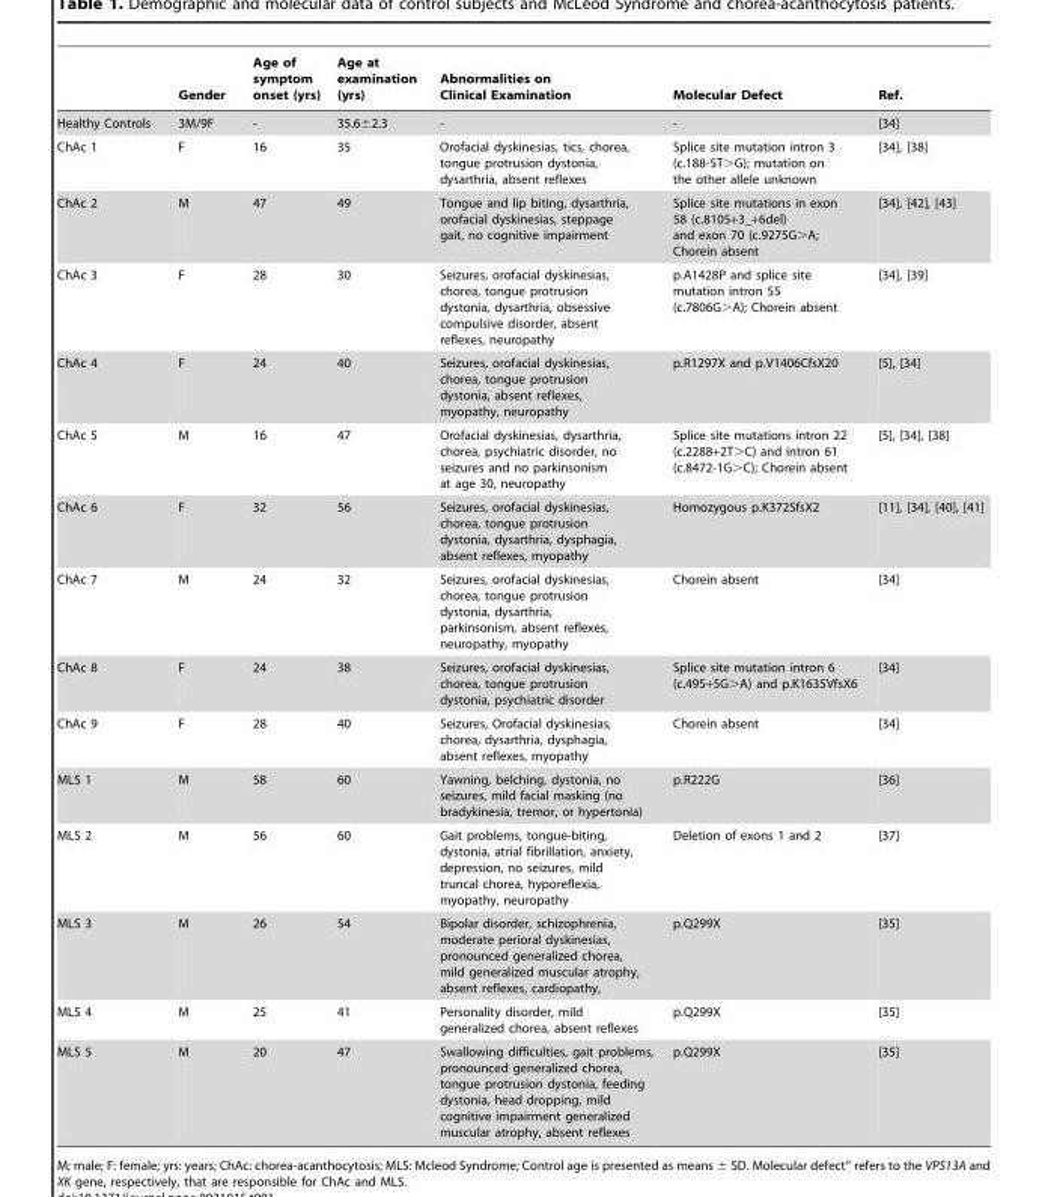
<table><thead><tr><td></td><td>Gender</td><td>Age of symptom onset (yrs)</td><td>Age at examination (yrs)</td><td>Abnormalities on Clinical Examination</td><td>Molecular Defect</td><td>Ref.</td></tr></thead><tbody><tr><td>Healthy Controls</td><td>3M/9F</td><td>-</td><td>35.6±2.3</td><td>-</td><td>-</td><td>[34]</td></tr><tr><td>ChAc 1</td><td>F</td><td>16</td><td>35</td><td>Orofacial dyskinesias, tics, chorea, tongue protrusion dystonia, dysarthria, absent reflexes</td><td>Splice site mutation intron 3 (c.188-5T&gt;G); mutation on the other allele unknown</td><td>[34], [38]</td></tr><tr><td>ChAc 2</td><td>M</td><td>47</td><td>49</td><td>Tongue and lip biting, dysarthria, orofacial dyskinesias, steppage gait, no cognitive impairment</td><td>Splice site mutations in exon 58 (c.8105+3_+6del) and exon 70 (c.9275G&gt;A; Chorein absent</td><td>[34], [42], [43]</td></tr><tr><td>ChAc 3</td><td>F</td><td>28</td><td>30</td><td>Seizures, orofacial dyskinesias, chorea, tongue protrusion dystonia, dysarthria, obsessive compulsive disorder, absent reflexes, neuropathy</td><td>p.A1428P and splice site mutation intron 55 (c.7806G&gt;A); Chorein absent</td><td>[34], [39]</td></tr><tr><td>ChAc 4</td><td>F</td><td>24</td><td>40</td><td>Seizures, orofacial dyskinesias, chorea, tongue protrusion dystonia, absent reflexes, myopathy, neuropathy</td><td>p.R1297X and p.V1406CfsX20</td><td>[5], [34]</td></tr><tr><td>ChAc 5</td><td>M</td><td>16</td><td>47</td><td>Orofacial dyskinesias, dysarthria, chorea, psychiatric disorder, no seizures and no parkinsonism at age 30, neuropathy</td><td>Splice site mutations intron 22 (c.2288+2T&gt;C) and intron 61 (c.8472-1G&gt;C); Chorein absent</td><td>[5], [34], [38]</td></tr><tr><td>ChAc 6</td><td>F</td><td>32</td><td>56</td><td>Seizures, orofacial dyskinesias, chorea, tongue protrusion dystonia, dysarthria, dysphagia, absent reflexes, myopathy</td><td>Homozygous p.K372SfsX2</td><td>[11], [34], [40], [41]</td></tr><tr><td>ChAc 7</td><td>M</td><td>24</td><td>32</td><td>Seizures, orofacial dyskinesias, chorea, tongue protrusion dystonia, dysarthria, parkinsonism, absent reflexes, neuropathy, myopathy</td><td>Chorein absent</td><td>[34]</td></tr><tr><td>ChAc 8</td><td>F</td><td>24</td><td>38</td><td>Seizures, orofacial dyskinesias, chorea, tongue protrusion dystonia, psychiatric disorder</td><td>Splice site mutation intron 6 (c.495+5G&gt;A) and p.K1635VfsX6</td><td>[34]</td></tr><tr><td>ChAc 9</td><td>F</td><td>28</td><td>40</td><td>Seizures, Orofacial dyskinesias, chorea, dysarthria, dysphagia, absent reflexes, myopathy</td><td>Chorein absent</td><td>[34]</td></tr><tr><td>MLS 1</td><td>M</td><td>58</td><td>60</td><td>Yawning, belching, dystonia, no seizures, mild facial masking (no bradykinesia, tremor, or hypertonia)</td><td>p.R222G</td><td>[36]</td></tr><tr><td>MLS 2</td><td>M</td><td>56</td><td>60</td><td>Gait problems, tongue-biting, dystonia, atrial fibrillation, anxiety, depression, no seizures, mild truncal chorea, hyporeflexia, myopathy, neuropathy</td><td>Deletion of exons 1 and 2</td><td>[37]</td></tr><tr><td>MLS 3</td><td>M</td><td>26</td><td>54</td><td>Bipolar disorder, schizophrenia, moderate perioral dyskinesias, pronounced generalized chorea, mild generalized muscular atrophy, absent reflexes, cardiopathy,</td><td>p.Q299X</td><td>[35]</td></tr><tr><td>MLS 4</td><td>M</td><td>25</td><td>41</td><td>Personality disorder, mild generalized chorea, absent reflexes</td><td>p.Q299X</td><td>[35]</td></tr><tr><td>MLS 5</td><td>M</td><td>20</td><td>47</td><td>Swallowing difficulties, gait problems, pronounced generalized chorea, tongue protrusion dystonia, feeding dystonia, head dropping, mild cognitive impairment generalized muscular atrophy, absent reflexes</td><td>p.Q299X</td><td>[35]</td></tr></tbody></table>